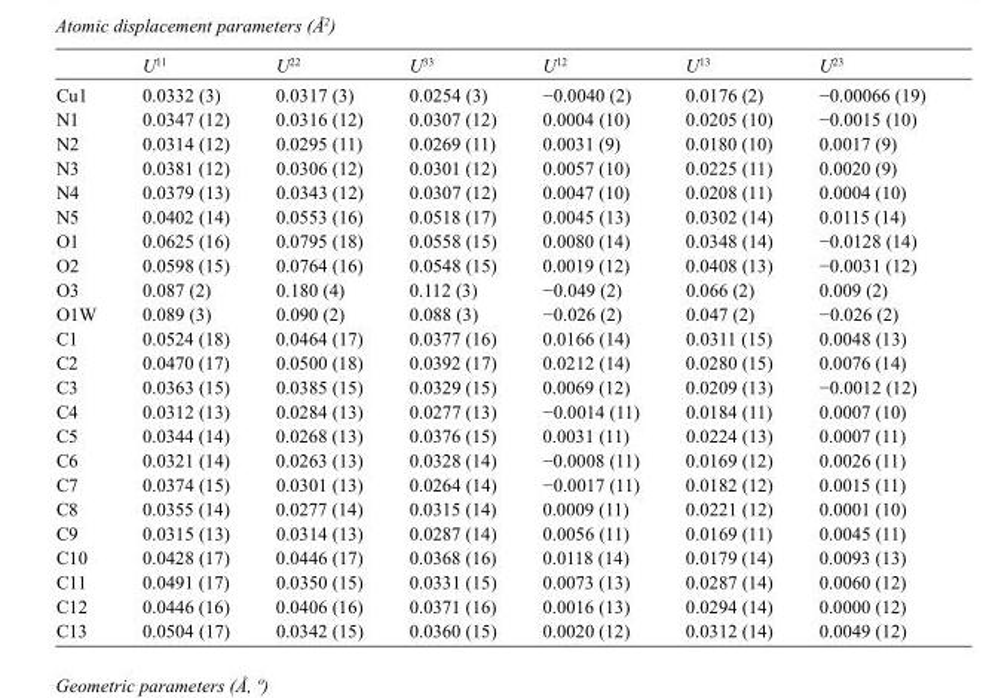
<table><thead><tr><td></td><td>U<sup>11</sup></td><td>U<sup>22</sup></td><td>U<sup>33</sup></td><td>U<sup>12</sup></td><td>U<sup>13</sup></td><td>U<sup>23</sup></td></tr></thead><tbody><tr><td>Cu1</td><td>0.0332 (3)</td><td>0.0317 (3)</td><td>0.0254 (3)</td><td>−0.0040 (2)</td><td>0.0176 (2)</td><td>−0.00066 (19)</td></tr><tr><td>N1</td><td>0.0347 (12)</td><td>0.0316 (12)</td><td>0.0307 (12)</td><td>0.0004 (10)</td><td>0.0205 (10)</td><td>−0.0015 (10)</td></tr><tr><td>N2</td><td>0.0314 (12)</td><td>0.0295 (11)</td><td>0.0269 (11)</td><td>0.0031 (9)</td><td>0.0180 (10)</td><td>0.0017 (9)</td></tr><tr><td>N3</td><td>0.0381 (12)</td><td>0.0306 (12)</td><td>0.0301 (12)</td><td>0.0057 (10)</td><td>0.0225 (11)</td><td>0.0020 (9)</td></tr><tr><td>N4</td><td>0.0379 (13)</td><td>0.0343 (12)</td><td>0.0307 (12)</td><td>0.0047 (10)</td><td>0.0208 (11)</td><td>0.0004 (10)</td></tr><tr><td>N5</td><td>0.0402 (14)</td><td>0.0553 (16)</td><td>0.0518 (17)</td><td>0.0045 (13)</td><td>0.0302 (14)</td><td>0.0115 (14)</td></tr><tr><td>O1</td><td>0.0625 (16)</td><td>0.0795 (18)</td><td>0.0558 (15)</td><td>0.0080 (14)</td><td>0.0348 (14)</td><td>−0.0128 (14)</td></tr><tr><td>O2</td><td>0.0598 (15)</td><td>0.0764 (16)</td><td>0.0548 (15)</td><td>0.0019 (12)</td><td>0.0408 (13)</td><td>−0.0031 (12)</td></tr><tr><td>O3</td><td>0.087 (2)</td><td>0.180 (4)</td><td>0.112 (3)</td><td>−0.049 (2)</td><td>0.066 (2)</td><td>0.009 (2)</td></tr><tr><td>O1W</td><td>0.089 (3)</td><td>0.090 (2)</td><td>0.088 (3)</td><td>−0.026 (2)</td><td>0.047 (2)</td><td>−0.026 (2)</td></tr><tr><td>C1</td><td>0.0524 (18)</td><td>0.0464 (17)</td><td>0.0377 (16)</td><td>0.0166 (14)</td><td>0.0311 (15)</td><td>0.0048 (13)</td></tr><tr><td>C2</td><td>0.0470 (17)</td><td>0.0500 (18)</td><td>0.0392 (17)</td><td>0.0212 (14)</td><td>0.0280 (15)</td><td>0.0076 (14)</td></tr><tr><td>C3</td><td>0.0363 (15)</td><td>0.0385 (15)</td><td>0.0329 (15)</td><td>0.0069 (12)</td><td>0.0209 (13)</td><td>−0.0012 (12)</td></tr><tr><td>C4</td><td>0.0312 (13)</td><td>0.0284 (13)</td><td>0.0277 (13)</td><td>−0.0014 (11)</td><td>0.0184 (11)</td><td>0.0007 (10)</td></tr><tr><td>C5</td><td>0.0344 (14)</td><td>0.0268 (13)</td><td>0.0376 (15)</td><td>0.0031 (11)</td><td>0.0224 (13)</td><td>0.0007 (11)</td></tr><tr><td>C6</td><td>0.0321 (14)</td><td>0.0263 (13)</td><td>0.0328 (14)</td><td>−0.0008 (11)</td><td>0.0169 (12)</td><td>0.0026 (11)</td></tr><tr><td>C7</td><td>0.0374 (15)</td><td>0.0301 (13)</td><td>0.0264 (14)</td><td>−0.0017 (11)</td><td>0.0182 (12)</td><td>0.0015 (11)</td></tr><tr><td>C8</td><td>0.0355 (14)</td><td>0.0277 (14)</td><td>0.0315 (14)</td><td>0.0009 (11)</td><td>0.0221 (12)</td><td>0.0001 (10)</td></tr><tr><td>C9</td><td>0.0315 (13)</td><td>0.0314 (13)</td><td>0.0287 (14)</td><td>0.0056 (11)</td><td>0.0169 (11)</td><td>0.0045 (11)</td></tr><tr><td>C10</td><td>0.0428 (17)</td><td>0.0446 (17)</td><td>0.0368 (16)</td><td>0.0118 (14)</td><td>0.0179 (14)</td><td>0.0093 (13)</td></tr><tr><td>C11</td><td>0.0491 (17)</td><td>0.0350 (15)</td><td>0.0331 (15)</td><td>0.0073 (13)</td><td>0.0287 (14)</td><td>0.0060 (12)</td></tr><tr><td>C12</td><td>0.0446 (16)</td><td>0.0406 (16)</td><td>0.0371 (16)</td><td>0.0016 (13)</td><td>0.0294 (14)</td><td>0.0000 (12)</td></tr><tr><td>C13</td><td>0.0504 (17)</td><td>0.0342 (15)</td><td>0.0360 (15)</td><td>0.0020 (12)</td><td>0.0312 (14)</td><td>0.0049 (12)</td></tr></tbody></table>